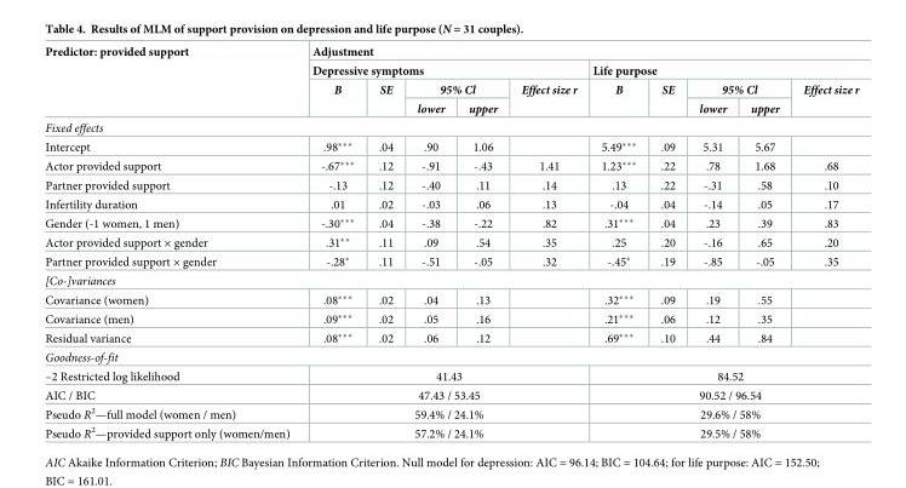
<table><thead><tr><td rowspan="4">Predictor: provided support</td><td colspan="10">Adjustment</td></tr><tr><td colspan="5">Depressive symptoms</td><td colspan="5">Life purpose</td></tr><tr><td rowspan="2">B</td><td rowspan="2">SE</td><td colspan="2">95% Cl</td><td rowspan="2">Effect size r</td><td rowspan="2">B</td><td rowspan="2">SE</td><td colspan="2">95% Cl</td><td rowspan="2">Effect size r</td></tr><tr><td>lower</td><td>upper</td><td>lower</td><td>upper</td></tr></thead><tbody><tr><td colspan="11">Fixed effects</td></tr><tr><td>Intercept</td><td>.98***</td><td>.04</td><td>.90</td><td>1.06</td><td></td><td>5.49***</td><td>.09</td><td>5.31</td><td>5.67</td><td></td></tr><tr><td>Actor provided support</td><td>-.67***</td><td>.12</td><td>-.91</td><td>-.43</td><td>1.41</td><td>1.23***</td><td>.22</td><td>.78</td><td>1.68</td><td>.68</td></tr><tr><td>Partner provided support</td><td>-.13</td><td>.12</td><td>-.40</td><td>.11</td><td>.14</td><td>.13</td><td>.22</td><td>-.31</td><td>.58</td><td>.10</td></tr><tr><td>Infertility duration</td><td>.01</td><td>.02</td><td>-.03</td><td>.06</td><td>.13</td><td>-.04</td><td>.04</td><td>-.14</td><td>.05</td><td>.17</td></tr><tr><td>Gender (-1 women, 1 men)</td><td>-.30***</td><td>.04</td><td>-.38</td><td>-.22</td><td>.82</td><td>.31***</td><td>.04</td><td>.23</td><td>.39</td><td>.83</td></tr><tr><td>Actor provided support × gender</td><td>.31**</td><td>.11</td><td>.09</td><td>.54</td><td>.35</td><td>.25</td><td>.20</td><td>-.16</td><td>.65</td><td>.20</td></tr><tr><td>Partner provided support × gender</td><td>-.28*</td><td>.11</td><td>-.51</td><td>-.05</td><td>.32</td><td>-.45*</td><td>.19</td><td>-.85</td><td>-.05</td><td>.35</td></tr><tr><td colspan="11">[Co-]variances</td></tr><tr><td>Covariance (women)</td><td>.08***</td><td>.02</td><td>.04</td><td>.13</td><td></td><td>.32***</td><td>.09</td><td>.19</td><td>.55</td><td></td></tr><tr><td>Covariance (men)</td><td>.09***</td><td>.02</td><td>.05</td><td>.16</td><td></td><td>.21***</td><td>.06</td><td>.12</td><td>.35</td><td></td></tr><tr><td>Residual variance</td><td>.08***</td><td>.02</td><td>.06</td><td>.12</td><td></td><td>.69***</td><td>.10</td><td>.44</td><td>.84</td><td></td></tr><tr><td colspan="11">Goodness-of-fit</td></tr><tr><td>–2 Restricted log likelihood</td><td colspan="5">41.43</td><td colspan="5">84.52</td></tr><tr><td>AIC / BIC</td><td colspan="5">47.43 / 53.45</td><td colspan="5">90.52 / 96.54</td></tr><tr><td>Pseudo R<sup>2</sup>—full model (women / men)</td><td colspan="5">59.4% / 24.1%</td><td colspan="5">29.6% / 58%</td></tr><tr><td>Pseudo R<sup>2</sup>—provided support only (women/men)</td><td colspan="5">57.2% / 24.1%</td><td colspan="5">29.5% / 58%</td></tr></tbody></table>